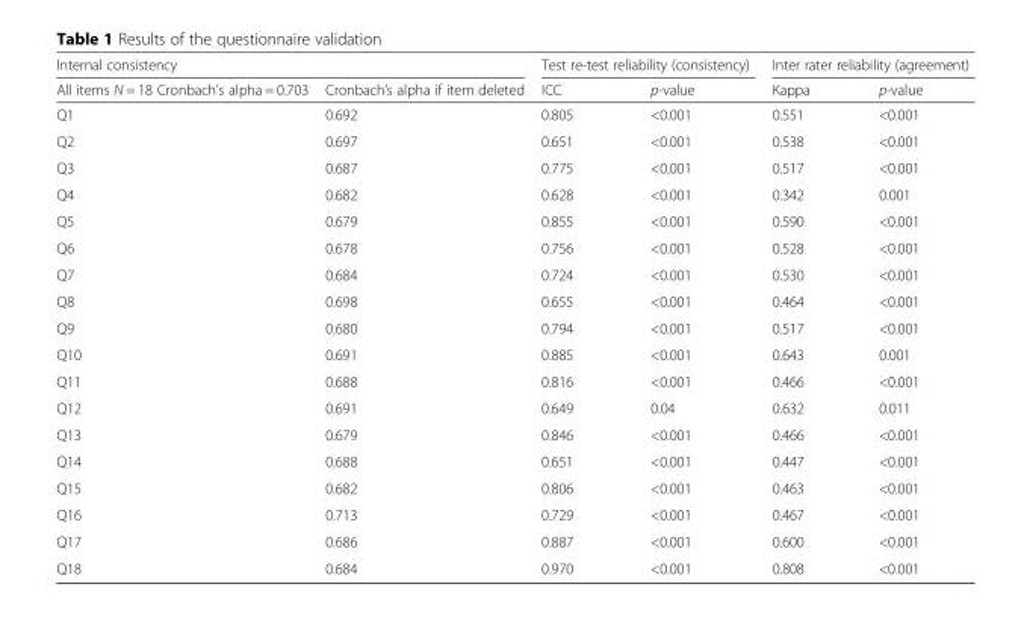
<table><thead><tr><td colspan="2">Internal consistency</td><td colspan="2">Test re-test reliability (consistency)</td><td colspan="2">Inter rater reliability (agreement)</td></tr><tr><td>All items N = 18 Cronbach’s alpha = 0.703</td><td>Cronbach’s alpha if item deleted</td><td>ICC</td><td>p-value</td><td>Kappa</td><td>p-value</td></tr></thead><tbody><tr><td>Q1</td><td>0.692</td><td>0.805</td><td>&lt;0.001</td><td>0.551</td><td>&lt;0.001</td></tr><tr><td>Q2</td><td>0.697</td><td>0.651</td><td>&lt;0.001</td><td>0.538</td><td>&lt;0.001</td></tr><tr><td>Q3</td><td>0.687</td><td>0.775</td><td>&lt;0.001</td><td>0.517</td><td>&lt;0.001</td></tr><tr><td>Q4</td><td>0.682</td><td>0.628</td><td>&lt;0.001</td><td>0.342</td><td>0.001</td></tr><tr><td>Q5</td><td>0.679</td><td>0.855</td><td>&lt;0.001</td><td>0.590</td><td>&lt;0.001</td></tr><tr><td>Q6</td><td>0.678</td><td>0.756</td><td>&lt;0.001</td><td>0.528</td><td>&lt;0.001</td></tr><tr><td>Q7</td><td>0.684</td><td>0.724</td><td>&lt;0.001</td><td>0.530</td><td>&lt;0.001</td></tr><tr><td>Q8</td><td>0.698</td><td>0.655</td><td>&lt;0.001</td><td>0.464</td><td>&lt;0.001</td></tr><tr><td>Q9</td><td>0.680</td><td>0.794</td><td>&lt;0.001</td><td>0.517</td><td>&lt;0.001</td></tr><tr><td>Q10</td><td>0.691</td><td>0.885</td><td>&lt;0.001</td><td>0.643</td><td>0.001</td></tr><tr><td>Q11</td><td>0.688</td><td>0.816</td><td>&lt;0.001</td><td>0.466</td><td>&lt;0.001</td></tr><tr><td>Q12</td><td>0.691</td><td>0.649</td><td>0.04</td><td>0.632</td><td>0.011</td></tr><tr><td>Q13</td><td>0.679</td><td>0.846</td><td>&lt;0.001</td><td>0.466</td><td>&lt;0.001</td></tr><tr><td>Q14</td><td>0.688</td><td>0.651</td><td>&lt;0.001</td><td>0.447</td><td>&lt;0.001</td></tr><tr><td>Q15</td><td>0.682</td><td>0.806</td><td>&lt;0.001</td><td>0.463</td><td>&lt;0.001</td></tr><tr><td>Q16</td><td>0.713</td><td>0.729</td><td>&lt;0.001</td><td>0.467</td><td>&lt;0.001</td></tr><tr><td>Q17</td><td>0.686</td><td>0.887</td><td>&lt;0.001</td><td>0.600</td><td>&lt;0.001</td></tr><tr><td>Q18</td><td>0.684</td><td>0.970</td><td>&lt;0.001</td><td>0.808</td><td>&lt;0.001</td></tr></tbody></table>